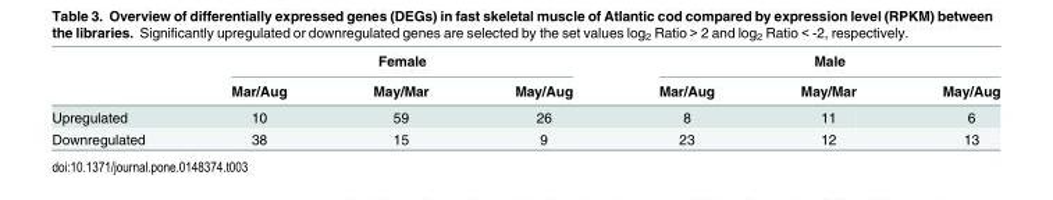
<table><thead><tr><td rowspan="2"></td><td colspan="3">Female</td><td colspan="3">Male</td></tr><tr><td>Mar/Aug</td><td>May/Mar</td><td>May/Aug</td><td>Mar/Aug</td><td>May/Mar</td><td>May/Aug</td></tr></thead><tbody><tr><td>Upregulated</td><td>10</td><td>59</td><td>26</td><td>8</td><td>11</td><td>6</td></tr><tr><td>Downregulated</td><td>38</td><td>15</td><td>9</td><td>23</td><td>12</td><td>13</td></tr></tbody></table>